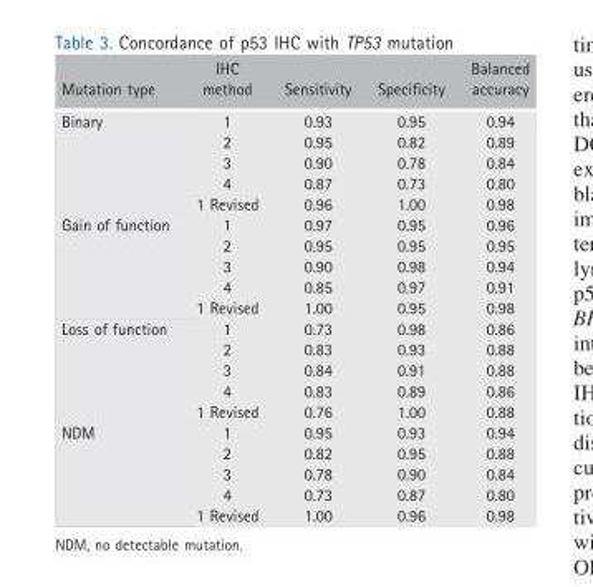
<table><thead><tr><td>Mutation type</td><td>IHC method</td><td>Sensitivity</td><td>Specificity</td><td>Balanced accuracy</td></tr></thead><tbody><tr><td rowspan="5">Binary</td><td>1</td><td>0.93</td><td>0.95</td><td>0.94</td></tr><tr><td>2</td><td>0.95</td><td>0.82</td><td>0.89</td></tr><tr><td>3</td><td>0.90</td><td>0.78</td><td>0.84</td></tr><tr><td>4</td><td>0.87</td><td>0.73</td><td>0.80</td></tr><tr><td>1 Revised</td><td>0.96</td><td>1.00</td><td>0.98</td></tr><tr><td rowspan="5">Gain of function</td><td>1</td><td>0.97</td><td>0.95</td><td>0.96</td></tr><tr><td>2</td><td>0.95</td><td>0.95</td><td>0.95</td></tr><tr><td>3</td><td>0.90</td><td>0.98</td><td>0.94</td></tr><tr><td>4</td><td>0.85</td><td>0.97</td><td>0.91</td></tr><tr><td>1 Revised</td><td>1.00</td><td>0.95</td><td>0.98</td></tr><tr><td rowspan="5">Loss of function</td><td>1</td><td>0.73</td><td>0.98</td><td>0.86</td></tr><tr><td>2</td><td>0.83</td><td>0.93</td><td>0.88</td></tr><tr><td>3</td><td>0.84</td><td>0.91</td><td>0.88</td></tr><tr><td>4</td><td>0.83</td><td>0.89</td><td>0.86</td></tr><tr><td>1 Revised</td><td>0.76</td><td>1.00</td><td>0.88</td></tr><tr><td rowspan="5">NDM</td><td>1</td><td>0.95</td><td>0.93</td><td>0.94</td></tr><tr><td>2</td><td>0.82</td><td>0.95</td><td>0.88</td></tr><tr><td>3</td><td>0.78</td><td>0.90</td><td>0.84</td></tr><tr><td>4</td><td>0.73</td><td>0.87</td><td>0.80</td></tr><tr><td>1 Revised</td><td>1.00</td><td>0.96</td><td>0.98</td></tr></tbody></table>